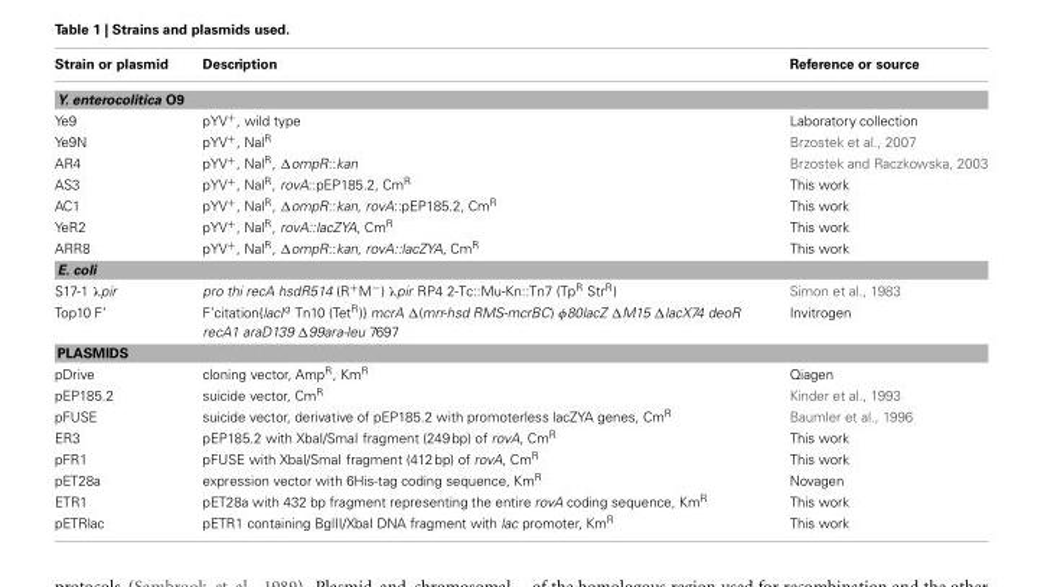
<table><thead><tr><td>Strain or plasmid</td><td>Description</td><td>Reference or source</td></tr></thead><tbody><tr><td colspan="3">Y. enterocolitica O9</td></tr><tr><td>Ye9</td><td>pYV<sup>+</sup>, wild type</td><td>Laboratory collection</td></tr><tr><td>Ye9N</td><td>pYV<sup>+</sup>, Nal<sup>R</sup></td><td>Brzostek et al., 2007</td></tr><tr><td>AR4</td><td>pYV<sup>+</sup>, Nal<sup>R</sup>, ΔompR::kan</td><td>Brzostek and Raczkowska, 2003</td></tr><tr><td>AS3</td><td>pYV<sup>+</sup>, Nal<sup>R</sup>, rovA::pEP185.2, Cm<sup>R</sup></td><td>This work</td></tr><tr><td>AC1</td><td>pYV<sup>+</sup>, Nal<sup>R</sup>, ΔompR::kan, rovA::pEP185.2, Cm<sup>R</sup></td><td>This work</td></tr><tr><td>YeR2</td><td>pYV<sup>+</sup>, Nal<sup>R</sup>, rovA::lacZYA, Cm<sup>R</sup></td><td>This work</td></tr><tr><td>ARR8</td><td>pYV<sup>+</sup>, Nal<sup>R</sup>, ΔompR::kan, rovA::lacZYA, Cm<sup>R</sup></td><td>This work</td></tr><tr><td colspan="3">E. coli</td></tr><tr><td>S17-1 λpir</td><td>pro thi recA hsdR514 (R<sup>+</sup>M<sup>−</sup>) λpir RP4 2-Tc::Mu-Kn::Tn7 (Tp<sup>R</sup> Str<sup>R</sup>)</td><td>Simon et al., 1983</td></tr><tr><td>Top10 F’</td><td>F’citation{lacI<sup>q</sup> Tn10 (Tet<sup>R</sup>)} mcrA Δ(mrr-hsd RMS-mcrBC) φ80lacZ ΔM15 ΔlacX74 deoR recA1 araD139 Δ99ara-leu 7697</td><td>Invitrogen</td></tr><tr><td colspan="3">PLASMIDS</td></tr><tr><td>pDrive</td><td>cloning vector, Amp<sup>R</sup>, Km<sup>R</sup></td><td>Qiagen</td></tr><tr><td>pEP185.2</td><td>suicide vector, Cm<sup>R</sup></td><td>Kinder et al., 1993</td></tr><tr><td>pFUSE</td><td>suicide vector, derivative of pEP185.2 with promoterless lacZYA genes, Cm<sup>R</sup></td><td>Baumler et al., 1996</td></tr><tr><td>ER3</td><td>pEP185.2 with XbaI/SmaI fragment (249 bp) of rovA, Cm<sup>R</sup></td><td>This work</td></tr><tr><td>pFR1</td><td>pFUSE with XbaI/SmaI fragment (412 bp) of rovA, Cm<sup>R</sup></td><td>This work</td></tr><tr><td>pET28a</td><td>expression vector with 6His-tag coding sequence, Km<sup>R</sup></td><td>Novagen</td></tr><tr><td>ETR1</td><td>pET28a with 432 bp fragment representing the entire rovA coding sequence, Km<sup>R</sup></td><td>This work</td></tr><tr><td>pETRlac</td><td>pETR1 containing BglII/XbaI DNA fragment with lac promoter, Km<sup>R</sup></td><td>This work</td></tr></tbody></table>